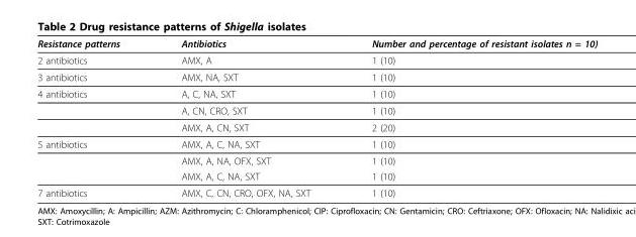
<table><thead><tr><td>Resistance patterns</td><td>Antibiotics</td><td>Number and percentage of resistant isolates n = 10)</td></tr></thead><tbody><tr><td>2 antibiotics</td><td>AMX, A</td><td>1 (10)</td></tr><tr><td>3 antibiotics</td><td>AMX, NA, SXT</td><td>1 (10)</td></tr><tr><td rowspan="3">4 antibiotics</td><td>A, C, NA, SXT</td><td>1 (10)</td></tr><tr><td>A, CN, CRO, SXT</td><td>1 (10)</td></tr><tr><td>AMX, A, CN, SXT</td><td>2 (20)</td></tr><tr><td rowspan="3">5 antibiotics</td><td>AMX, A, C, NA, SXT</td><td>1 (10)</td></tr><tr><td>AMX, A, NA, OFX, SXT</td><td>1 (10)</td></tr><tr><td>AMX, A, C, NA, SXT</td><td>1 (10)</td></tr><tr><td>7 antibiotics</td><td>AMX, C, CN, CRO, OFX, NA, SXT</td><td>1 (10)</td></tr></tbody></table>